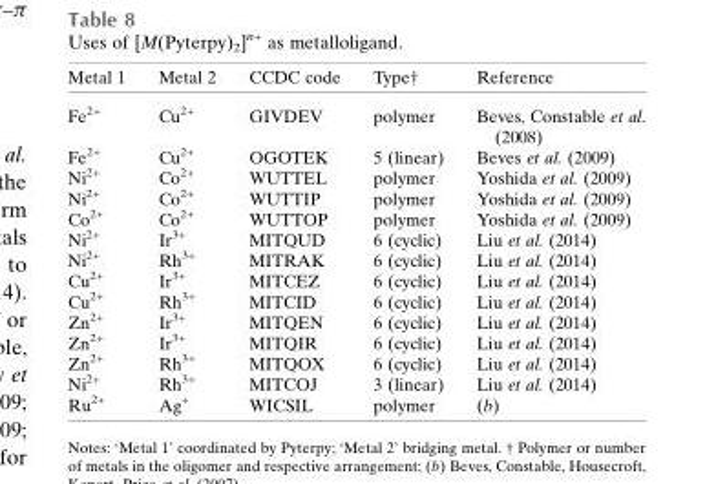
<table><thead><tr><td>Metal 1</td><td>Metal 2</td><td>CCDC code</td><td>Type†</td><td>Reference</td></tr></thead><tbody><tr><td>Fe<sup>2+</sup></td><td>Cu<sup>2+</sup></td><td>GIVDEV</td><td>polymer</td><td>Beves, Constable et al. (2008)</td></tr><tr><td>Fe<sup>2+</sup></td><td>Cu<sup>2+</sup></td><td>OGOTEK</td><td>5 (linear)</td><td>Beves et al. (2009)</td></tr><tr><td>Ni<sup>2+</sup></td><td>Co<sup>2+</sup></td><td>WUTTEL</td><td>polymer</td><td>Yoshida et al. (2009)</td></tr><tr><td>Ni<sup>2+</sup></td><td>Co<sup>2+</sup></td><td>WUTTIP</td><td>polymer</td><td>Yoshida et al. (2009)</td></tr><tr><td>Co<sup>2+</sup></td><td>Co<sup>2+</sup></td><td>WUTTOP</td><td>polymer</td><td>Yoshida et al. (2009)</td></tr><tr><td>Ni<sup>2+</sup></td><td>Ir<sup>3+</sup></td><td>MITQUD</td><td>6 (cyclic)</td><td>Liu et al. (2014)</td></tr><tr><td>Ni<sup>2+</sup></td><td>Rh<sup>3+</sup></td><td>MITRAK</td><td>6 (cyclic)</td><td>Liu et al. (2014)</td></tr><tr><td>Cu<sup>2+</sup></td><td>Ir<sup>3+</sup></td><td>MITCEZ</td><td>6 (cyclic)</td><td>Liu et al. (2014)</td></tr><tr><td>Cu<sup>2+</sup></td><td>Rh<sup>3+</sup></td><td>MITCID</td><td>6 (cyclic)</td><td>Liu et al. (2014)</td></tr><tr><td>Zn<sup>2+</sup></td><td>Ir<sup>3+</sup></td><td>MITQEN</td><td>6 (cyclic)</td><td>Liu et al. (2014)</td></tr><tr><td>Zn<sup>2+</sup></td><td>Ir<sup>3+</sup></td><td>MITQIR</td><td>6 (cyclic)</td><td>Liu et al. (2014)</td></tr><tr><td>Zn<sup>2+</sup></td><td>Rh<sup>3+</sup></td><td>MITQOX</td><td>6 (cyclic)</td><td>Liu et al. (2014)</td></tr><tr><td>Ni<sup>2+</sup></td><td>Rh<sup>3+</sup></td><td>MITCOJ</td><td>3 (linear)</td><td>Liu et al. (2014)</td></tr><tr><td>Ru<sup>2+</sup></td><td>Ag<sup>+</sup></td><td>WICSIL</td><td>polymer</td><td>(b)</td></tr></tbody></table>